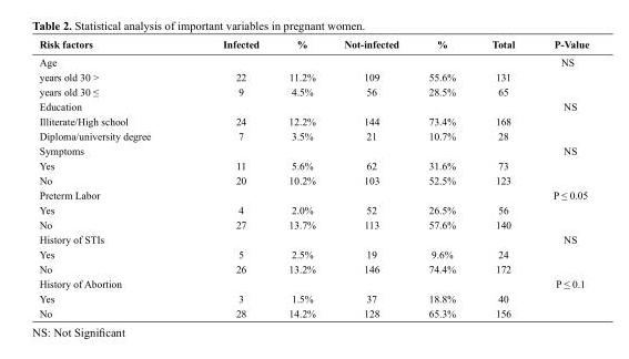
<table><thead><tr><td>Risk factors</td><td>Infected</td><td>%</td><td>Not-infected</td><td>%</td><td>Total</td><td>P-value</td></tr></thead><tbody><tr><td>Age</td><td></td><td></td><td></td><td></td><td></td><td>NS</td></tr><tr><td>years old 30 &gt;</td><td>22</td><td>11.2%</td><td>109</td><td>55.6%</td><td>131</td><td></td></tr><tr><td>years old 30 ≤</td><td>9</td><td>4.5%</td><td>56</td><td>28.5%</td><td>65</td><td></td></tr><tr><td>Education</td><td></td><td></td><td></td><td></td><td></td><td>NS</td></tr><tr><td>Illiterate/High school</td><td>24</td><td>12.2%</td><td>144</td><td>73.4%</td><td>168</td><td></td></tr><tr><td>Diploma/university degree</td><td>7</td><td>3.5%</td><td>21</td><td>10.7%</td><td>28</td><td></td></tr><tr><td>Symptoms</td><td></td><td></td><td></td><td></td><td></td><td>NS</td></tr><tr><td>Yes</td><td>11</td><td>5.6%</td><td>62</td><td>31.6%</td><td>73</td><td></td></tr><tr><td>No</td><td>20</td><td>10.2%</td><td>103</td><td>52.5%</td><td>123</td><td></td></tr><tr><td>Preterm Labor</td><td></td><td></td><td></td><td></td><td></td><td>P ≤ 0.05</td></tr><tr><td>Yes</td><td>4</td><td>2.0%</td><td>52</td><td>26.5%</td><td>56</td><td></td></tr><tr><td>No</td><td>27</td><td>13.7%</td><td>113</td><td>57.6%</td><td>140</td><td></td></tr><tr><td>History of STIs</td><td></td><td></td><td></td><td></td><td></td><td>NS</td></tr><tr><td>Yes</td><td>5</td><td>2.5%</td><td>19</td><td>9.6%</td><td>24</td><td></td></tr><tr><td>No</td><td>26</td><td>13.2%</td><td>146</td><td>74.4%</td><td>172</td><td></td></tr><tr><td>History of Abortion</td><td></td><td></td><td></td><td></td><td></td><td>P ≤ 0.1</td></tr><tr><td>Yes</td><td>3</td><td>1.5%</td><td>37</td><td>18.8%</td><td>40</td><td></td></tr><tr><td>No</td><td>28</td><td>14.2%</td><td>128</td><td>65.3%</td><td>156</td><td></td></tr></tbody></table>